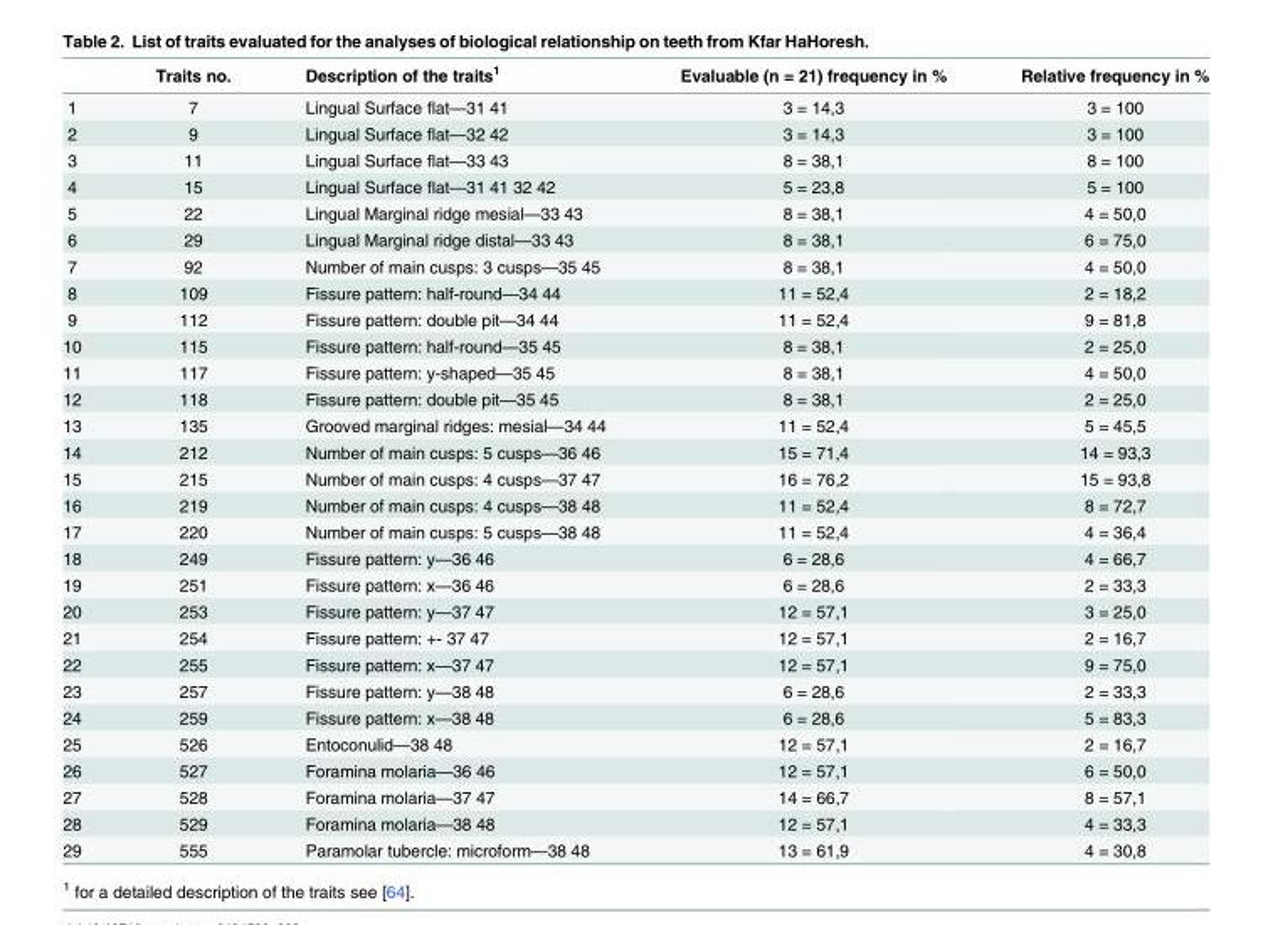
<table><thead><tr><td></td><td>Traits no.</td><td>Description of the traits<sup>1</sup></td><td>Evaluable (n = 21) frequency in %</td><td>Relative frequency in %</td></tr></thead><tbody><tr><td>1</td><td>7</td><td>Lingual Surface flat—31 41</td><td>3 = 14,3</td><td>3 = 100</td></tr><tr><td>2</td><td>9</td><td>Lingual Surface flat—32 42</td><td>3 = 14,3</td><td>3 = 100</td></tr><tr><td>3</td><td>11</td><td>Lingual Surface flat—33 43</td><td>8 = 38,1</td><td>8 = 100</td></tr><tr><td>4</td><td>15</td><td>Lingual Surface flat—31 41 32 42</td><td>5 = 23,8</td><td>5 = 100</td></tr><tr><td>5</td><td>22</td><td>Lingual Marginal ridge mesial—33 43</td><td>8 = 38,1</td><td>4 = 50,0</td></tr><tr><td>6</td><td>29</td><td>Lingual Marginal ridge distal—33 43</td><td>8 = 38,1</td><td>6 = 75,0</td></tr><tr><td>7</td><td>92</td><td>Number of main cusps: 3 cusps—35 45</td><td>8 = 38,1</td><td>4 = 50,0</td></tr><tr><td>8</td><td>109</td><td>Fissure pattern: half-round—34 44</td><td>11 = 52,4</td><td>2 = 18,2</td></tr><tr><td>9</td><td>112</td><td>Fissure pattern: double pit—34 44</td><td>11 = 52,4</td><td>9 = 81,8</td></tr><tr><td>10</td><td>115</td><td>Fissure pattern: half-round—35 45</td><td>8 = 38,1</td><td>2 = 25,0</td></tr><tr><td>11</td><td>117</td><td>Fissure pattern: y-shaped—35 45</td><td>8 = 38,1</td><td>4 = 50,0</td></tr><tr><td>12</td><td>118</td><td>Fissure pattern: double pit—35 45</td><td>8 = 38,1</td><td>2 = 25,0</td></tr><tr><td>13</td><td>135</td><td>Grooved marginal ridges: mesial—34 44</td><td>11 = 52,4</td><td>5 = 45,5</td></tr><tr><td>14</td><td>212</td><td>Number of main cusps: 5 cusps—36 46</td><td>15 = 71,4</td><td>14 = 93,3</td></tr><tr><td>15</td><td>215</td><td>Number of main cusps: 4 cusps—37 47</td><td>16 = 76,2</td><td>15 = 93,8</td></tr><tr><td>16</td><td>219</td><td>Number of main cusps: 4 cusps—38 48</td><td>11 = 52,4</td><td>8 = 72,7</td></tr><tr><td>17</td><td>220</td><td>Number of main cusps: 5 cusps—38 48</td><td>11 = 52,4</td><td>4 = 36,4</td></tr><tr><td>18</td><td>249</td><td>Fissure pattern: y—36 46</td><td>6 = 28,6</td><td>4 = 66,7</td></tr><tr><td>19</td><td>251</td><td>Fissure pattern: x—36 46</td><td>6 = 28,6</td><td>2 = 33,3</td></tr><tr><td>20</td><td>253</td><td>Fissure pattern: y—37 47</td><td>12 = 57,1</td><td>3 = 25,0</td></tr><tr><td>21</td><td>254</td><td>Fissure pattern: +- 37 47</td><td>12 = 57,1</td><td>2 = 16,7</td></tr><tr><td>22</td><td>255</td><td>Fissure pattern: x—37 47</td><td>12 = 57,1</td><td>9 = 75,0</td></tr><tr><td>23</td><td>257</td><td>Fissure pattern: y—38 48</td><td>6 = 28,6</td><td>2 = 33,3</td></tr><tr><td>24</td><td>259</td><td>Fissure pattern: x—38 48</td><td>6 = 28,6</td><td>5 = 83,3</td></tr><tr><td>25</td><td>526</td><td>Entoconulid—38 48</td><td>12 = 57,1</td><td>2 = 16,7</td></tr><tr><td>26</td><td>527</td><td>Foramina molaria—36 46</td><td>12 = 57,1</td><td>6 = 50,0</td></tr><tr><td>27</td><td>528</td><td>Foramina molaria—37 47</td><td>14 = 66,7</td><td>8 = 57,1</td></tr><tr><td>28</td><td>529</td><td>Foramina molaria—38 48</td><td>12 = 57,1</td><td>4 = 33,3</td></tr><tr><td>29</td><td>555</td><td>Paramolar tubercle: microform—38 48</td><td>13 = 61,9</td><td>4 = 30,8</td></tr></tbody></table>